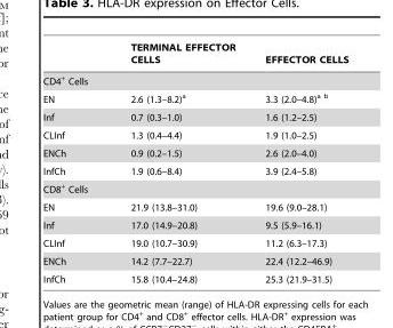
<table><thead><tr><td></td><td>TERMINAL EFFECTOR CELLS</td><td>EFFECTOR CELLS</td></tr></thead><tbody><tr><td colspan="3">CD4<sup>+</sup> Cells</td></tr><tr><td>EN</td><td>2.6 (1.3–8.2)<sup>a</sup></td><td>3.3 (2.0–4.8)<sup>a b</sup></td></tr><tr><td>Inf</td><td>0.7 (0.3–1.0)</td><td>1.6 (1.2–2.5)</td></tr><tr><td>CLInf</td><td>1.3 (0.4–4.4)</td><td>1.9 (1.0–2.5)</td></tr><tr><td>ENCh</td><td>0.9 (0.2–1.5)</td><td>2.6 (2.0–4.0)</td></tr><tr><td>InfCh</td><td>1.9 (0.6–8.4)</td><td>3.9 (2.4–5.8)</td></tr><tr><td colspan="3">CD8<sup>+</sup> Cells</td></tr><tr><td>EN</td><td>21.9 (13.8–31.0)</td><td>19.6 (9.0–28.1)</td></tr><tr><td>Inf</td><td>17.0 (14.9–20.8)</td><td>9.5 (5.9–16.1)</td></tr><tr><td>CLInf</td><td>19.0 (10.7–30.9)</td><td>11.2 (6.3–17.3)</td></tr><tr><td>ENCh</td><td>14.2 (7.7–22.7)</td><td>22.4 (12.2–46.9)</td></tr><tr><td>InfCh</td><td>15.8 (10.4–24.8)</td><td>25.3 (21.9–31.5)</td></tr></tbody></table>